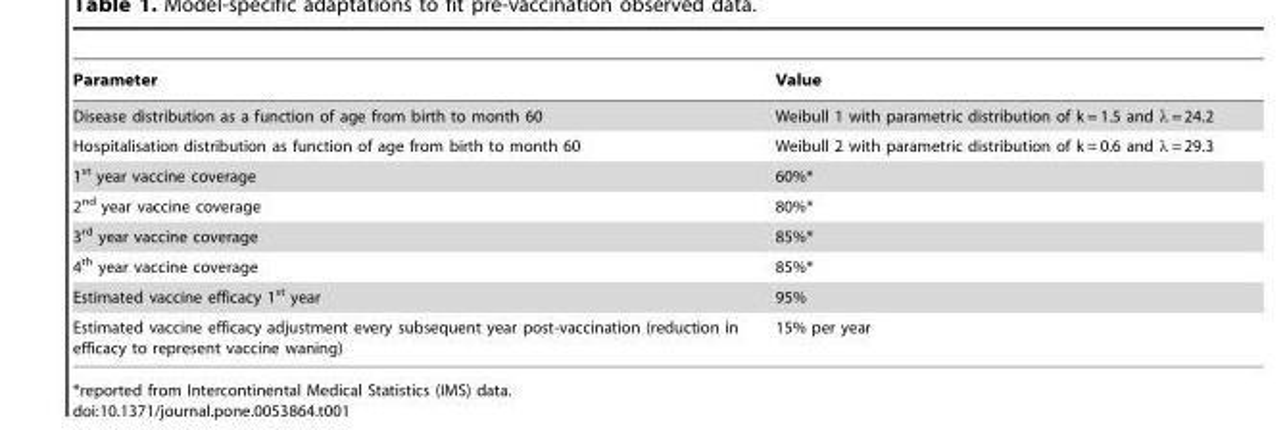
<table><thead><tr><td>Parameter</td><td>Value</td></tr></thead><tbody><tr><td>Disease distribution as a function of age from birth to month 60</td><td>Weibull 1 with parametric distribution of k = 1.5 and λ = 24.2</td></tr><tr><td>Hospitalisation distribution as function of age from birth to month 60</td><td>Weibull 2 with parametric distribution of k = 0.6 and λ = 29.3</td></tr><tr><td>1<sup>st</sup> year vaccine coverage</td><td>60%*</td></tr><tr><td>2<sup>nd</sup> year vaccine coverage</td><td>80%*</td></tr><tr><td>3<sup>rd</sup> year vaccine coverage</td><td>85%*</td></tr><tr><td>4<sup>th</sup> year vaccine coverage</td><td>85%*</td></tr><tr><td>Estimated vaccine efficacy 1<sup>st</sup> year</td><td>95%</td></tr><tr><td>Estimated vaccine efficacy adjustment every subsequent year post-vaccination (reduction in efficacy to represent vaccine waning)</td><td>15% per year</td></tr></tbody></table>